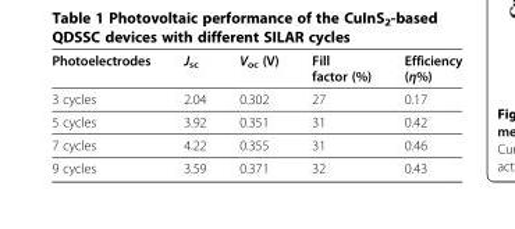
<table><thead><tr><td>Photoelectrodes</td><td>J<sub>sc</sub></td><td>V<sub>oc</sub> (V)</td><td>Fill factor (%)</td><td>Efficiency (η%)</td></tr></thead><tbody><tr><td>3 cycles</td><td>2.04</td><td>0.302</td><td>27</td><td>0.17</td></tr><tr><td>5 cycles</td><td>3.92</td><td>0.351</td><td>31</td><td>0.42</td></tr><tr><td>7 cycles</td><td>4.22</td><td>0.355</td><td>31</td><td>0.46</td></tr><tr><td>9 cycles</td><td>3.59</td><td>0.371</td><td>32</td><td>0.43</td></tr></tbody></table>